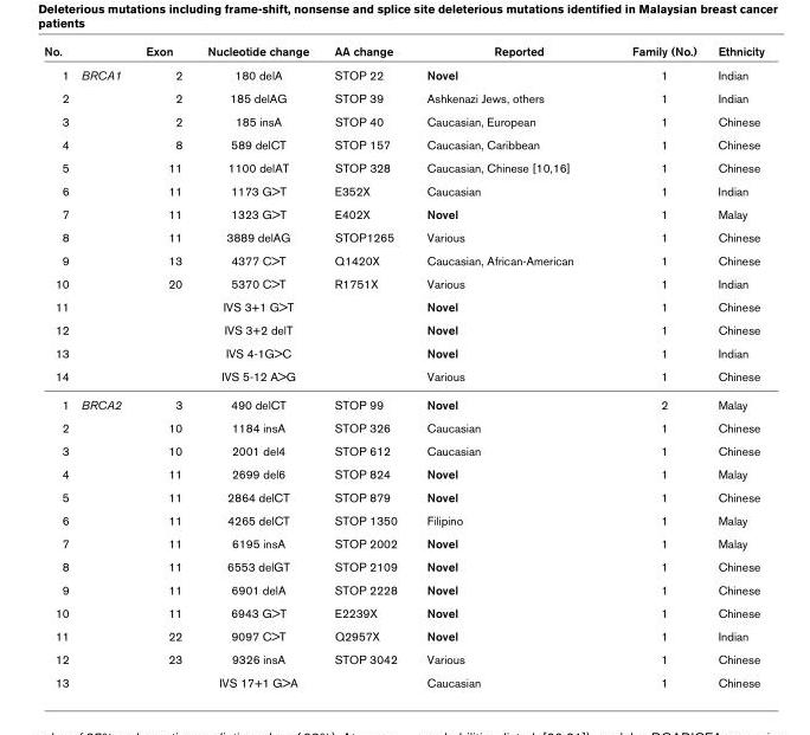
<table><thead><tr><td>No.</td><td></td><td>Exon</td><td>Nucleotide change</td><td>AA change</td><td>Reported</td><td>Family (No.)</td><td>Ethnicity</td></tr></thead><tbody><tr><td>1</td><td>BRCA1</td><td>2</td><td>180 delA</td><td>STOP 22</td><td>Novel</td><td>1</td><td>Indian</td></tr><tr><td>2</td><td></td><td>2</td><td>185 delAG</td><td>STOP 39</td><td>Ashkenazi Jews, others</td><td>1</td><td>Indian</td></tr><tr><td>3</td><td></td><td>2</td><td>185 insA</td><td>STOP 40</td><td>Caucasian, European</td><td>1</td><td>Chinese</td></tr><tr><td>4</td><td></td><td>8</td><td>589 delCT</td><td>STOP 157</td><td>Caucasian, Caribbean</td><td>1</td><td>Chinese</td></tr><tr><td>5</td><td></td><td>11</td><td>1100 delAT</td><td>STOP 328</td><td>Caucasian, Chinese [10,16]</td><td>1</td><td>Chinese</td></tr><tr><td>6</td><td></td><td>11</td><td>1173 G&gt;T</td><td>E352X</td><td>Caucasian</td><td>1</td><td>Indian</td></tr><tr><td>7</td><td></td><td>11</td><td>1323 G&gt;T</td><td>E402X</td><td>Novel</td><td>1</td><td>Malay</td></tr><tr><td>8</td><td></td><td>11</td><td>3889 delAG</td><td>STOP1265</td><td>Various</td><td>1</td><td>Chinese</td></tr><tr><td>9</td><td></td><td>13</td><td>4377 C&gt;T</td><td>Q1420X</td><td>Caucasian, African-American</td><td>1</td><td>Chinese</td></tr><tr><td>10</td><td></td><td>20</td><td>5370 C&gt;T</td><td>R1751X</td><td>Various</td><td>1</td><td>Indian</td></tr><tr><td>11</td><td></td><td></td><td>IVS 3+1 G&gt;T</td><td></td><td>Novel</td><td>1</td><td>Chinese</td></tr><tr><td>12</td><td></td><td></td><td>IVS 3+2 delT</td><td></td><td>Novel</td><td>1</td><td>Chinese</td></tr><tr><td>13</td><td></td><td></td><td>IVS 4-1G&gt;C</td><td></td><td>Novel</td><td>1</td><td>Indian</td></tr><tr><td>14</td><td></td><td></td><td>IVS 5-12 A&gt;G</td><td></td><td>Various</td><td>1</td><td>Chinese</td></tr><tr><td>1</td><td>BRCA2</td><td>3</td><td>490 delCT</td><td>STOP 99</td><td>Novel</td><td>2</td><td>Malay</td></tr><tr><td>2</td><td></td><td>10</td><td>1184 insA</td><td>STOP 326</td><td>Caucasian</td><td>1</td><td>Chinese</td></tr><tr><td>3</td><td></td><td>10</td><td>2001 del4</td><td>STOP 612</td><td>Caucasian</td><td>1</td><td>Chinese</td></tr><tr><td>4</td><td></td><td>11</td><td>2699 del6</td><td>STOP 824</td><td>Novel</td><td>1</td><td>Malay</td></tr><tr><td>5</td><td></td><td>11</td><td>2864 delCT</td><td>STOP 879</td><td>Novel</td><td>1</td><td>Chinese</td></tr><tr><td>6</td><td></td><td>11</td><td>4265 delCT</td><td>STOP 1350</td><td>Filipino</td><td>1</td><td>Malay</td></tr><tr><td>7</td><td></td><td>11</td><td>6195 insA</td><td>STOP 2002</td><td>Novel</td><td>1</td><td>Malay</td></tr><tr><td>8</td><td></td><td>11</td><td>6553 delGT</td><td>STOP 2109</td><td>Novel</td><td>1</td><td>Chinese</td></tr><tr><td>9</td><td></td><td>11</td><td>6901 delA</td><td>STOP 2228</td><td>Novel</td><td>1</td><td>Chinese</td></tr><tr><td>10</td><td></td><td>11</td><td>6943 G&gt;T</td><td>E2239X</td><td>Novel</td><td>1</td><td>Chinese</td></tr><tr><td>11</td><td></td><td>22</td><td>9097 C&gt;T</td><td>Q2957X</td><td>Novel</td><td>1</td><td>Indian</td></tr><tr><td>12</td><td></td><td>23</td><td>9326 insA</td><td>STOP 3042</td><td>Various</td><td>1</td><td>Chinese</td></tr><tr><td>13</td><td></td><td></td><td>IVS 17+1 G&gt;A</td><td></td><td>Caucasian</td><td>1</td><td>Chinese</td></tr></tbody></table>